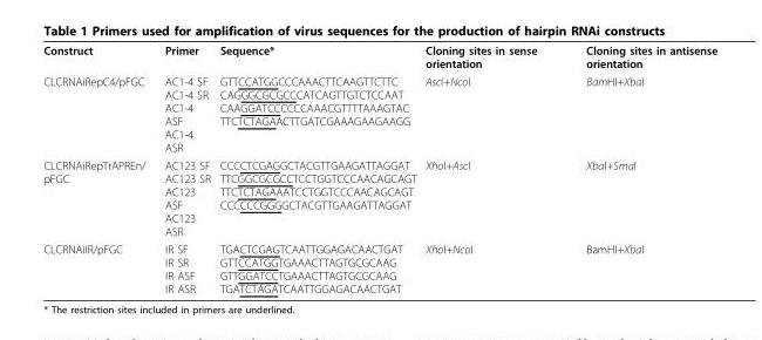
<table><tbody><tr><td>Construct</td><td>Primer</td><td>Sequence*</td><td>Cloning sites in sense orientation</td><td>Cloning sites in antisense orientation</td></tr><tr><td>CLCRNAiRepC4/pFGC</td><td>AC1-4 SF AC1-4 SR AC1-4 ASF AC1-4 ASR</td><td>GTTCCATGGCCCAAACTTCAAGTTCTTC CAGGGCGCGCCCATCAGTTGTCTCCAAT CAAGGATCCCCCCAAACGTTTTAAAGTAC TTCTCTAGAACTTGATCGAAAGAAGAAGG</td><td>AscI+NcoI</td><td>BamHI+XbaI</td></tr><tr><td>CLCRNAiRepTrAPREn/ pFGC</td><td>AC123 SF AC123 SR AC123 ASF AC123 ASR</td><td>CCCCTCGAGGCTACGTTGAAGATTAGGAT TTCGGCGCGCCTCCTGGTCCCAACAGCAGT TTCTCTAGAAATCCTGGTCCCAACAGCAGT CCCCCCGGGGCTACGTTGAAGATTAGGAT</td><td>XhoI+AscI</td><td>XbaI+SmaI</td></tr><tr><td>CLCRNAiIR/pFGC</td><td>IR SF IR SR IR ASF IR ASR</td><td>TGACTCGAGTCAATTGGAGACAACTGAT GTTCCATGGTGAAACTTAGTGCGCAAG GTTGGATCCTGAAACTTAGTGCGCAAG TGATCTAGATCAATTGGAGACAACTGAT</td><td>XhoI+NcoI</td><td>BamHI+XbaI</td></tr></tbody></table>